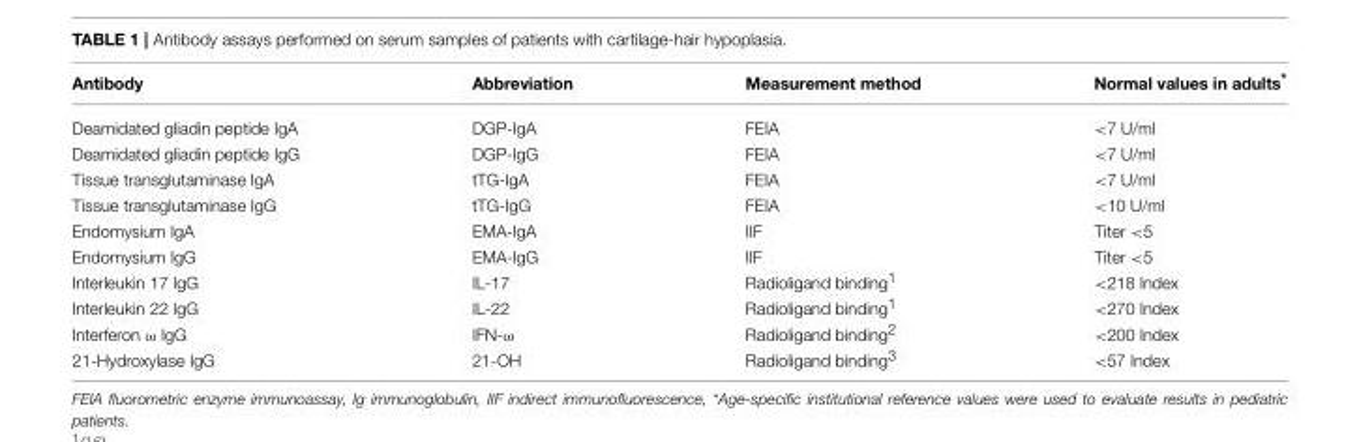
<table><thead><tr><td>Antibody</td><td>Abbreviation</td><td>Measurement method</td><td>Normal values in adults*</td></tr></thead><tbody><tr><td>Deamidated gliadin peptide IgA</td><td>DGP-IgA</td><td>FEIA</td><td>&lt;7 U/ml</td></tr><tr><td>Deamidated gliadin peptide IgG</td><td>DGP-IgG</td><td>FEIA</td><td>&lt;7 U/ml</td></tr><tr><td>Tissue transglutaminase IgA</td><td>tTG-IgA</td><td>FEIA</td><td>&lt;7 U/ml</td></tr><tr><td>Tissue transglutaminase IgG</td><td>tTG-IgG</td><td>FEIA</td><td>&lt;10 U/ml</td></tr><tr><td>Endomysium IgA</td><td>EMA-IgA</td><td>IIF</td><td>Titer &lt;5</td></tr><tr><td>Endomysium IgG</td><td>EMA-IgG</td><td>IIF</td><td>Titer &lt;5</td></tr><tr><td>Interleukin 17 IgG</td><td>IL-17</td><td>Radioligand binding<sup>1</sup></td><td>&lt;218 Index</td></tr><tr><td>Interleukin 22 IgG</td><td>IL-22</td><td>Radioligand binding<sup>1</sup></td><td>&lt;270 Index</td></tr><tr><td>Interferon ω IgG</td><td>IFN-ω</td><td>Radioligand binding<sup>2</sup></td><td>&lt;200 Index</td></tr><tr><td>21-Hydroxylase IgG</td><td>21-OH</td><td>Radioligand binding<sup>3</sup></td><td>&lt;57 Index</td></tr></tbody></table>